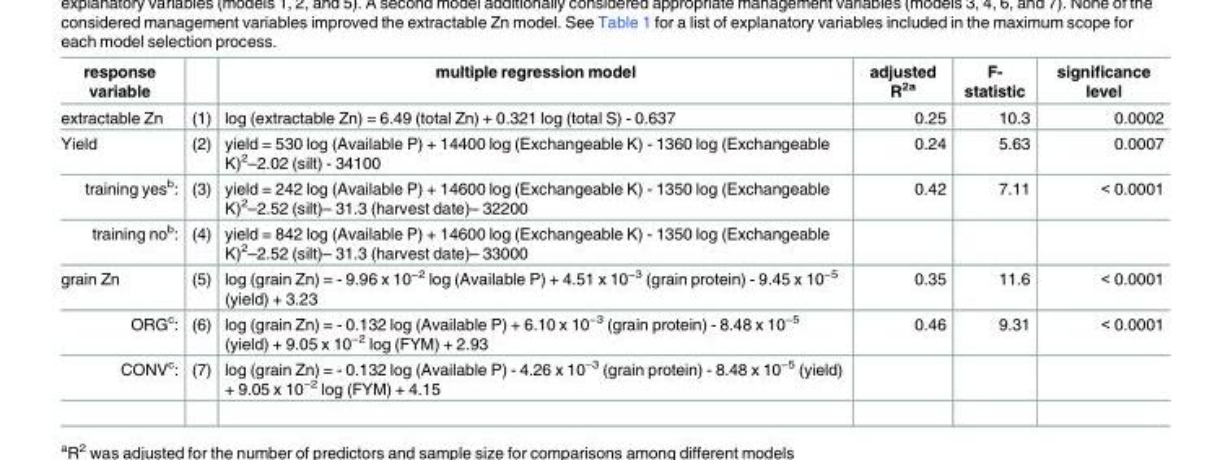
<table><thead><tr><td>response variable</td><td></td><td>multiple regression model</td><td>adjusted R<sup>2a</sup></td><td>F- statistic</td><td>significance level</td></tr></thead><tbody><tr><td>extractable Zn</td><td>(1)</td><td>log (extractable Zn) = 6.49 (total Zn) + 0.321 log (total S) - 0.637</td><td>0.25</td><td>10.3</td><td>0.0002</td></tr><tr><td>Yield</td><td>(2)</td><td>yield = 530 log (Available P) + 14400 log (Exchangeable K) - 1360 log (Exchangeable K)<sup>2</sup>–2.02 (silt) - 34100</td><td>0.24</td><td>5.63</td><td>0.0007</td></tr><tr><td>training yes<sup>b</sup>:</td><td>(3)</td><td>yield = 242 log (Available P) + 14600 log (Exchangeable K) - 1350 log (Exchangeable K)<sup>2</sup>–2.52 (silt)– 31.3 (harvest date)– 32200</td><td>0.42</td><td>7.11</td><td>&lt; 0.0001</td></tr><tr><td>training no<sup>b</sup>:</td><td>(4)</td><td>yield = 842 log (Available P) + 14600 log (Exchangeable K) - 1350 log (Exchangeable K)<sup>2</sup>–2.52 (silt)– 31.3 (harvest date)– 33000</td><td></td><td></td><td></td></tr><tr><td>grain Zn</td><td>(5)</td><td>log (grain Zn) = - 9.96 x 10<sup>−2</sup> log (Available P) + 4.51 x 10<sup>−3</sup> (grain protein) - 9.45 x 10<sup>−5</sup> (yield) + 3.23</td><td>0.35</td><td>11.6</td><td>&lt; 0.0001</td></tr><tr><td>ORG<sup>c</sup>:</td><td>(6)</td><td>log (grain Zn) = - 0.132 log (Available P) + 6.10 x 10<sup>−3</sup> (grain protein) - 8.48 x 10<sup>−5</sup> (yield) + 9.05 x 10<sup>−2</sup> log (FYM) + 2.93</td><td>0.46</td><td>9.31</td><td>&lt; 0.0001</td></tr><tr><td>CONV<sup>c</sup>:</td><td>(7)</td><td>log (grain Zn) = - 0.132 log (Available P) - 4.26 x 10<sup>−3</sup> (grain protein) - 8.48 x 10<sup>−5</sup> (yield) + 9.05 x 10<sup>−2</sup> log (FYM) + 4.15</td><td></td><td></td><td></td></tr></tbody></table>